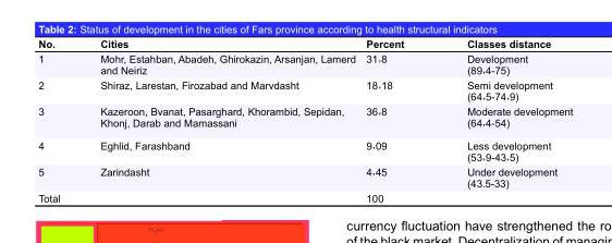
<table><thead><tr><td>No.</td><td>Cities</td><td>Percent</td><td>Classes distance</td></tr></thead><tbody><tr><td>1</td><td>Mohr, Estahban, Abadeh, Ghirokazin, Arsanjan, Lamerd and Neiriz</td><td>31.8</td><td>Development (89.4-75)</td></tr><tr><td>2</td><td>Shiraz, Larestan, Firozabad and Marvdasht</td><td>18.18</td><td>Semi development (64.5-74.9)</td></tr><tr><td>3</td><td>Kazeroon, Bvanat, Pasarghard, Khorambid, Sepidan, Khonj, Darab and Mamassani</td><td>36.8</td><td>Moderate development (64.4-54)</td></tr><tr><td>4</td><td>Eghlid, Farashband</td><td>9.09</td><td>Less development (53.9-43.5)</td></tr><tr><td>5</td><td>Zarindasht</td><td>4.45</td><td>Under development (43.5-33)</td></tr><tr><td>Total</td><td></td><td>100</td><td></td></tr></tbody></table>